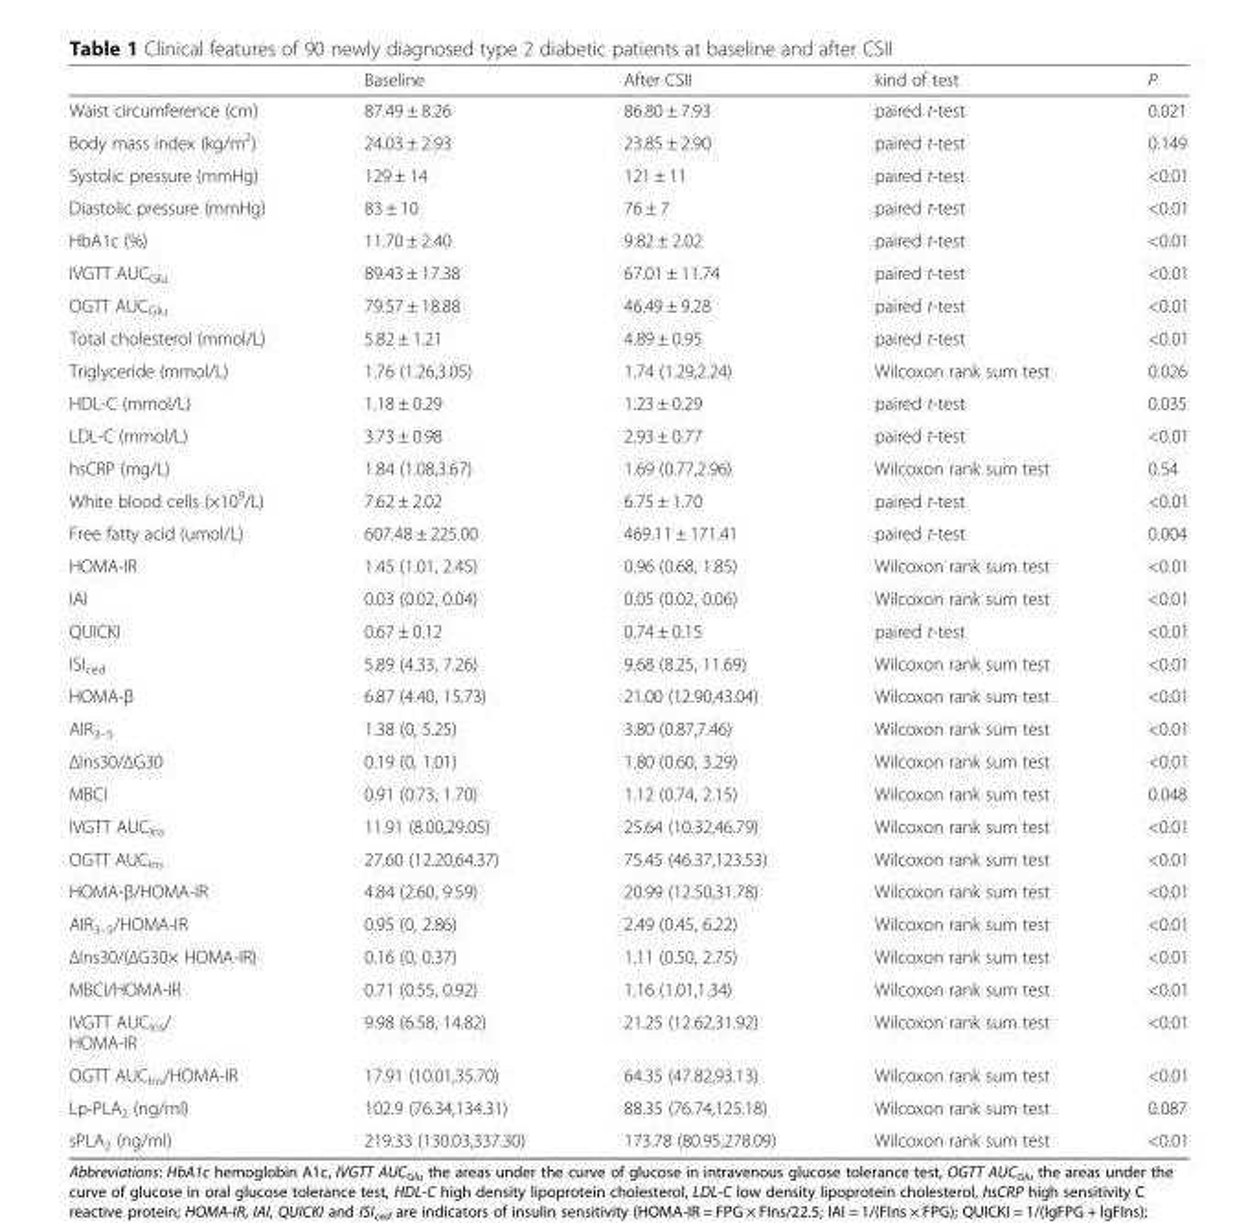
<table><thead><tr><td></td><td>Baseline</td><td>After CSII</td><td>kind of test</td><td>P</td></tr></thead><tbody><tr><td>Waist circumference (cm)</td><td>87.49 ± 8.26</td><td>86.80 ± 7.93</td><td>paired t-test</td><td>0.021</td></tr><tr><td>Body mass index (kg/m<sup>2</sup>)</td><td>24.03 ± 2.93</td><td>23.85 ± 2.90</td><td>paired t-test</td><td>0.149</td></tr><tr><td>Systolic pressure (mmHg)</td><td>129 ± 14</td><td>121 ± 11</td><td>paired t-test</td><td>&lt;0.01</td></tr><tr><td>Diastolic pressure (mmHg)</td><td>83 ± 10</td><td>76 ± 7</td><td>paired t-test</td><td>&lt;0.01</td></tr><tr><td>HbA1c (%)</td><td>11.70 ± 2.40</td><td>9.82 ± 2.02</td><td>paired t-test</td><td>&lt;0.01</td></tr><tr><td>IVGTT AUC<sub>Glu</sub></td><td>89.43 ± 17.38</td><td>67.01 ± 11.74</td><td>paired t-test</td><td>&lt;0.01</td></tr><tr><td>OGTT AUC<sub>Glu</sub></td><td>79.57 ± 18.88</td><td>46.49 ± 9.28</td><td>paired t-test</td><td>&lt;0.01</td></tr><tr><td>Total cholesterol (mmol/L)</td><td>5.82 ± 1.21</td><td>4.89 ± 0.95</td><td>paired t-test</td><td>&lt;0.01</td></tr><tr><td>Triglyceride (mmol/L)</td><td>1.76 (1.26,3.05)</td><td>1.74 (1.29,2.24)</td><td>Wilcoxon rank sum test</td><td>0.026</td></tr><tr><td>HDL-C (mmol/L)</td><td>1.18 ± 0.29</td><td>1.23 ± 0.29</td><td>paired t-test</td><td>0.035</td></tr><tr><td>LDL-C (mmol/L)</td><td>3.73 ± 0.98</td><td>2.93 ± 0.77</td><td>paired t-test</td><td>&lt;0.01</td></tr><tr><td>hsCRP (mg/L)</td><td>1.84 (1.08,3.67)</td><td>1.69 (0.77,2.96)</td><td>Wilcoxon rank sum test</td><td>0.54</td></tr><tr><td>White blood cells (×10<sup>9</sup>/L)</td><td>7.62 ± 2.02</td><td>6.75 ± 1.70</td><td>paired t-test</td><td>&lt;0.01</td></tr><tr><td>Free fatty acid (umol/L)</td><td>607.48 ± 225.00</td><td>469.11 ± 171.41</td><td>paired t-test</td><td>0.004</td></tr><tr><td>HOMA-IR</td><td>1.45 (1.01, 2.45)</td><td>0.96 (0.68, 1.85)</td><td>Wilcoxon rank sum test</td><td>&lt;0.01</td></tr><tr><td>IAI</td><td>0.03 (0.02, 0.04)</td><td>0.05 (0.02, 0.06)</td><td>Wilcoxon rank sum test</td><td>&lt;0.01</td></tr><tr><td>QUICKI</td><td>0.67 ± 0.12</td><td>0.74 ± 0.15</td><td>paired t-test</td><td>&lt;0.01</td></tr><tr><td>ISI<sub>ced</sub></td><td>5.89 (4.33, 7.26)</td><td>9.68 (8.25, 11.69)</td><td>Wilcoxon rank sum test</td><td>&lt;0.01</td></tr><tr><td>HOMA-β</td><td>6.87 (4.40, 15.73)</td><td>21.00 (12.90,43.04)</td><td>Wilcoxon rank sum test</td><td>&lt;0.01</td></tr><tr><td>AIR<sub>3–5</sub></td><td>1.38 (0, 5.25)</td><td>3.80 (0.87,7.46)</td><td>Wilcoxon rank sum test</td><td>&lt;0.01</td></tr><tr><td>ΔIns30/ΔG30</td><td>0.19 (0, 1.01)</td><td>1.80 (0.60, 3.29)</td><td>Wilcoxon rank sum test</td><td>&lt;0.01</td></tr><tr><td>MBCI</td><td>0.91 (0.73, 1.70)</td><td>1.12 (0.74, 2.15)</td><td>Wilcoxon rank sum test</td><td>0.048</td></tr><tr><td>IVGTT AUC<sub>Ins</sub></td><td>11.91 (8.00,29.05)</td><td>25.64 (10.32,46.79)</td><td>Wilcoxon rank sum test</td><td>&lt;0.01</td></tr><tr><td>OGTT AUC<sub>Ins</sub></td><td>27.60 (12.20,64.37)</td><td>75.45 (46.37,123.53)</td><td>Wilcoxon rank sum test</td><td>&lt;0.01</td></tr><tr><td>HOMA-β/HOMA-IR</td><td>4.84 (2.60, 9.59)</td><td>20.99 (12.50,31.78)</td><td>Wilcoxon rank sum test</td><td>&lt;0.01</td></tr><tr><td>AIR<sub>3–5</sub>/HOMA-IR</td><td>0.95 (0, 2.86)</td><td>2.49 (0.45, 6.22)</td><td>Wilcoxon rank sum test</td><td>&lt;0.01</td></tr><tr><td>ΔIns30/(ΔG30× HOMA-IR)</td><td>0.16 (0, 0.37)</td><td>1.11 (0.50, 2.75)</td><td>Wilcoxon rank sum test</td><td>&lt;0.01</td></tr><tr><td>MBCI/HOMA-IR</td><td>0.71 (0.55, 0.92)</td><td>1.16 (1.01,1.34)</td><td>Wilcoxon rank sum test</td><td>&lt;0.01</td></tr><tr><td>IVGTT AUC<sub>Ins</sub>/ HOMA-IR</td><td>9.98 (6.58, 14.82)</td><td>21.25 (12.62,31.92)</td><td>Wilcoxon rank sum test</td><td>&lt;0.01</td></tr><tr><td>OGTT AUC<sub>Ins</sub>/HOMA-IR</td><td>17.91 (10.01,35.70)</td><td>64.35 (47.82,93.13)</td><td>Wilcoxon rank sum test</td><td>&lt;0.01</td></tr><tr><td>Lp-PLA<sub>2</sub> (ng/ml)</td><td>102.9 (76.34,134.31)</td><td>88.35 (76.74,125.18)</td><td>Wilcoxon rank sum test</td><td>0.087</td></tr><tr><td>sPLA<sub>2</sub> (ng/ml)</td><td>219.33 (130.03,337.30)</td><td>173.78 (80.95,278.09)</td><td>Wilcoxon rank sum test</td><td>&lt;0.01</td></tr></tbody></table>